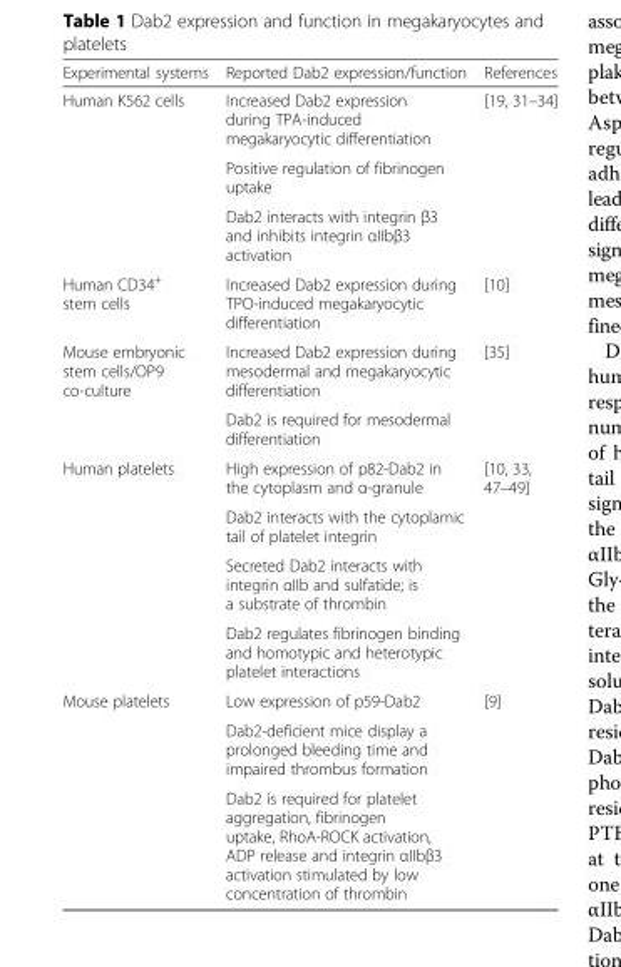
<table><thead><tr><td>Experimental systems</td><td>Reported Dab2 expression/function</td><td>References</td></tr></thead><tbody><tr><td rowspan="3">Human K562 cells</td><td>Increased Dab2 expression during TPA-induced megakaryocytic differentiation</td><td rowspan="3">[19, 31–34]</td></tr><tr><td>Positive regulation of fibrinogen uptake</td></tr><tr><td>Dab2 interacts with integrin β3 and inhibits integrin αIIbβ3 activation</td></tr><tr><td>Human CD34<sup>+</sup> stem cells</td><td>Increased Dab2 expression during TPO-induced megakaryocytic differentiation</td><td>[10]</td></tr><tr><td rowspan="2">Mouse embryonic stem cells/OP9 co-culture</td><td>Increased Dab2 expression during mesodermal and megakaryocytic differentiation</td><td rowspan="2">[35]</td></tr><tr><td>Dab2 is required for mesodermal differentiation</td></tr><tr><td rowspan="4">Human platelets</td><td>High expression of p82-Dab2 in the cytoplasm and α-granule</td><td rowspan="4">[10, 33, 47–49]</td></tr><tr><td>Dab2 interacts with the cytoplamic tail of platelet integrin</td></tr><tr><td>Secreted Dab2 interacts with integrin αIIb and sulfatide; is a substrate of thrombin</td></tr><tr><td>Dab2 regulates fibrinogen binding and homotypic and heterotypic platelet interactions</td></tr><tr><td rowspan="3">Mouse platelets</td><td>Low expression of p59-Dab2</td><td rowspan="3">[9]</td></tr><tr><td>Dab2-deficient mice display a prolonged bleeding time and impaired thrombus formation</td></tr><tr><td>Dab2 is required for platelet aggregation, fibrinogen uptake, RhoA-ROCK activation, ADP release and integrin αIIbβ3 activation stimulated by low concentration of thrombin</td></tr></tbody></table>